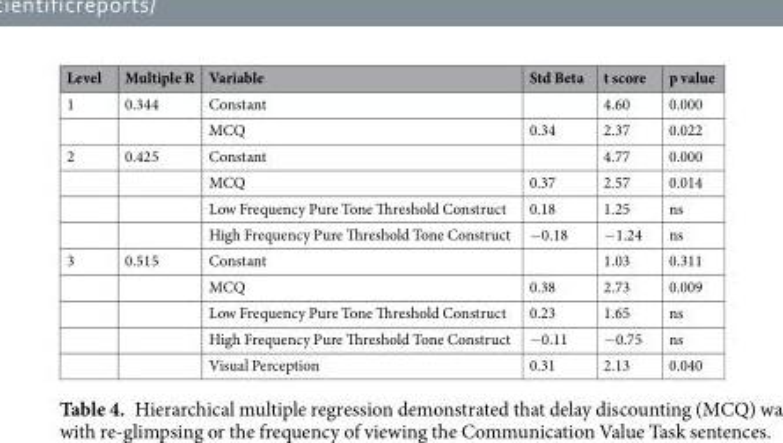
<table><thead><tr><td>Level</td><td>Multiple R</td><td>Variable</td><td>Std Beta</td><td>t score</td><td>p value</td></tr></thead><tbody><tr><td rowspan="2">1</td><td>0.344</td><td>Constant</td><td></td><td>4.60</td><td>0.000</td></tr><tr><td></td><td>MCQ</td><td>0.34</td><td>2.37</td><td>0.022</td></tr><tr><td rowspan="4">2</td><td>0.425</td><td>Constant</td><td></td><td>4.77</td><td>0.000</td></tr><tr><td></td><td>MCQ</td><td>0.37</td><td>2.57</td><td>0.014</td></tr><tr><td></td><td>Low Frequency Pure Tone Threshold Construct</td><td>0.18</td><td>1.25</td><td>ns</td></tr><tr><td></td><td>High Frequency Pure Threshold Tone Construct</td><td>−0.18</td><td>−1.24</td><td>ns</td></tr><tr><td rowspan="5">3</td><td>0.515</td><td>Constant</td><td></td><td>1.03</td><td>0.311</td></tr><tr><td></td><td>MCQ</td><td>0.38</td><td>2.73</td><td>0.009</td></tr><tr><td></td><td>Low Frequency Pure Tone Threshold Construct</td><td>0.23</td><td>1.65</td><td>ns</td></tr><tr><td></td><td>High Frequency Pure Threshold Tone Construct</td><td>−0.11</td><td>−0.75</td><td>ns</td></tr><tr><td></td><td>Visual Perception</td><td>0.31</td><td>2.13</td><td>0.040</td></tr></tbody></table>